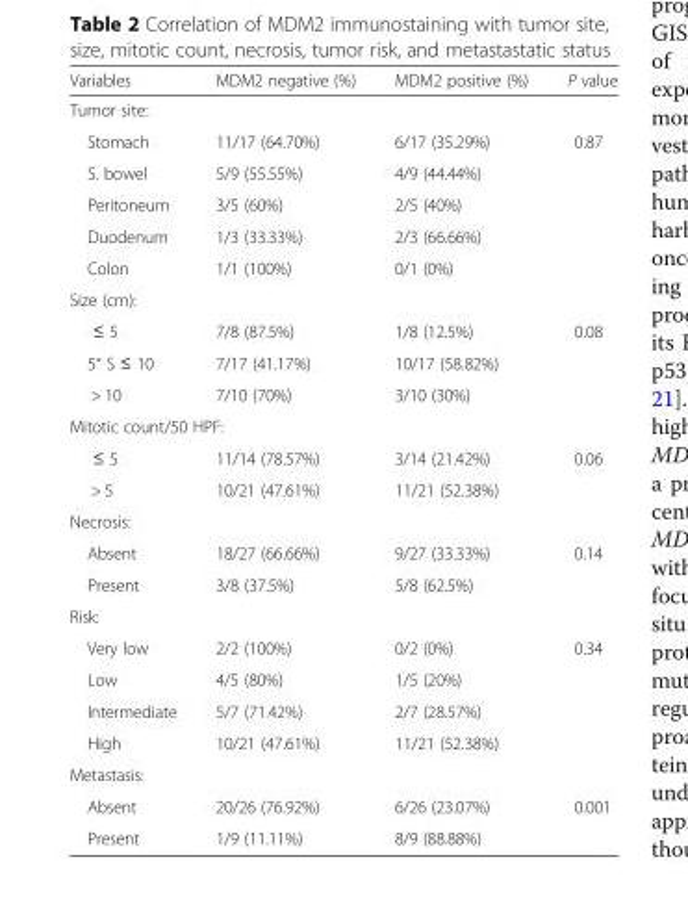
<table><thead><tr><td>Variables</td><td>MDM2 negative (%)</td><td>MDM2 positive (%)</td><td>P value</td></tr></thead><tbody><tr><td colspan="4">Tumor site:</td></tr><tr><td>Stomach</td><td>11/17 (64.70%)</td><td>6/17 (35.29%)</td><td rowspan="5">0.87</td></tr><tr><td>S. bowel</td><td>5/9 (55.55%)</td><td>4/9 (44.44%)</td></tr><tr><td>Peritoneum</td><td>3/5 (60%)</td><td>2/5 (40%)</td></tr><tr><td>Duodenum</td><td>1/3 (33.33%)</td><td>2/3 (66.66%)</td></tr><tr><td>Colon</td><td>1/1 (100%)</td><td>0/1 (0%)</td></tr><tr><td colspan="4">Size (cm):</td></tr><tr><td>≤ 5</td><td>7/8 (87.5%)</td><td>1/8 (12.5%)</td><td rowspan="3">0.08</td></tr><tr><td>5˂ S ≤ 10</td><td>7/17 (41.17%)</td><td>10/17 (58.82%)</td></tr><tr><td>&gt; 10</td><td>7/10 (70%)</td><td>3/10 (30%)</td></tr><tr><td colspan="4">Mitotic count/50 HPF:</td></tr><tr><td>≤ 5</td><td>11/14 (78.57%)</td><td>3/14 (21.42%)</td><td rowspan="2">0.06</td></tr><tr><td>&gt; 5</td><td>10/21 (47.61%)</td><td>11/21 (52.38%)</td></tr><tr><td colspan="4">Necrosis:</td></tr><tr><td>Absent</td><td>18/27 (66.66%)</td><td>9/27 (33.33%)</td><td rowspan="2">0.14</td></tr><tr><td>Present</td><td>3/8 (37.5%)</td><td>5/8 (62.5%)</td></tr><tr><td colspan="4">Risk:</td></tr><tr><td>Very low</td><td>2/2 (100%)</td><td>0/2 (0%)</td><td rowspan="4">0.34</td></tr><tr><td>Low</td><td>4/5 (80%)</td><td>1/5 (20%)</td></tr><tr><td>Intermediate</td><td>5/7 (71.42%)</td><td>2/7 (28.57%)</td></tr><tr><td>High</td><td>10/21 (47.61%)</td><td>11/21 (52.38%)</td></tr><tr><td colspan="4">Metastasis:</td></tr><tr><td>Absent</td><td>20/26 (76.92%)</td><td>6/26 (23.07%)</td><td rowspan="2">0.001</td></tr><tr><td>Present</td><td>1/9 (11.11%)</td><td>8/9 (88.88%)</td></tr></tbody></table>